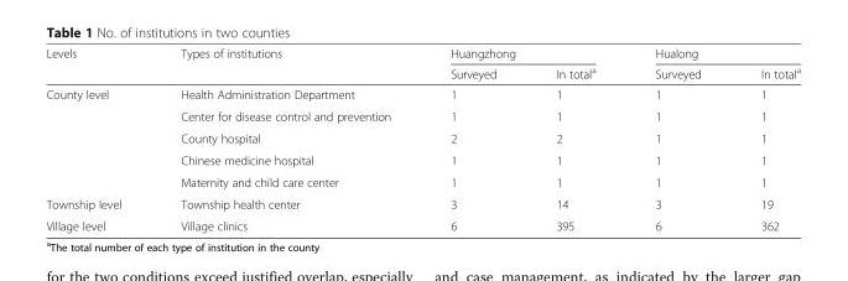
<table><thead><tr><td rowspan="2">Levels</td><td rowspan="2">Types of institutions</td><td colspan="2">Huangzhong</td><td colspan="2">Hualong</td></tr><tr><td>Surveyed</td><td>In total<sup>a</sup></td><td>Surveyed</td><td>In total<sup>a</sup></td></tr></thead><tbody><tr><td rowspan="5">County level</td><td>Health Administration Department</td><td>1</td><td>1</td><td>1</td><td>1</td></tr><tr><td>Center for disease control and prevention</td><td>1</td><td>1</td><td>1</td><td>1</td></tr><tr><td>County hospital</td><td>2</td><td>2</td><td>1</td><td>1</td></tr><tr><td>Chinese medicine hospital</td><td>1</td><td>1</td><td>1</td><td>1</td></tr><tr><td>Maternity and child care center</td><td>1</td><td>1</td><td>1</td><td>1</td></tr><tr><td>Township level</td><td>Township health center</td><td>3</td><td>14</td><td>3</td><td>19</td></tr><tr><td>Village level</td><td>Village clinics</td><td>6</td><td>395</td><td>6</td><td>362</td></tr></tbody></table>